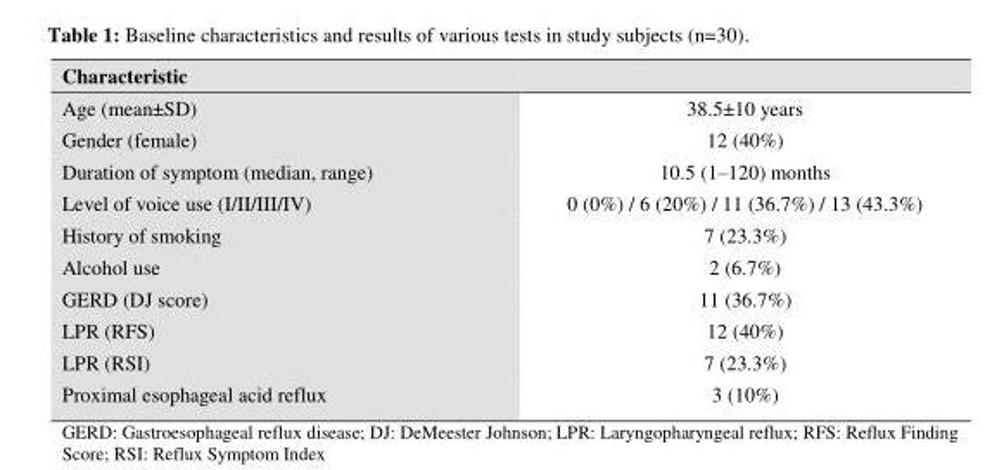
<table><thead><tr><td>Characteristic</td><td></td></tr></thead><tbody><tr><td>Age (mean±SD)</td><td>38.5±10 years</td></tr><tr><td>Gender (female)</td><td>12 (40%)</td></tr><tr><td>Duration of symptom (median, range)</td><td>10.5 (1–120) months</td></tr><tr><td>Level of voice use (I/II/III/IV)</td><td>0 (0%) / 6 (20%) / 11 (36.7%) / 13 (43.3%)</td></tr><tr><td>History of smoking</td><td>7 (23.3%)</td></tr><tr><td>Alcohol use</td><td>2 (6.7%)</td></tr><tr><td>GERD (DJ score)</td><td>11 (36.7%)</td></tr><tr><td>LPR (RFS)</td><td>12 (40%)</td></tr><tr><td>LPR (RSI)</td><td>7 (23.3%)</td></tr><tr><td>Proximal esophageal acid reflux</td><td>3 (10%)</td></tr></tbody></table>